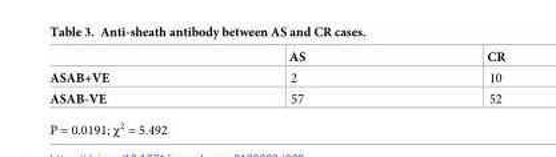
<table><thead><tr><td></td><td>AS</td><td>CR</td></tr></thead><tbody><tr><td>ASAB+VE</td><td>2</td><td>10</td></tr><tr><td>ASAB-VE</td><td>57</td><td>52</td></tr></tbody></table>